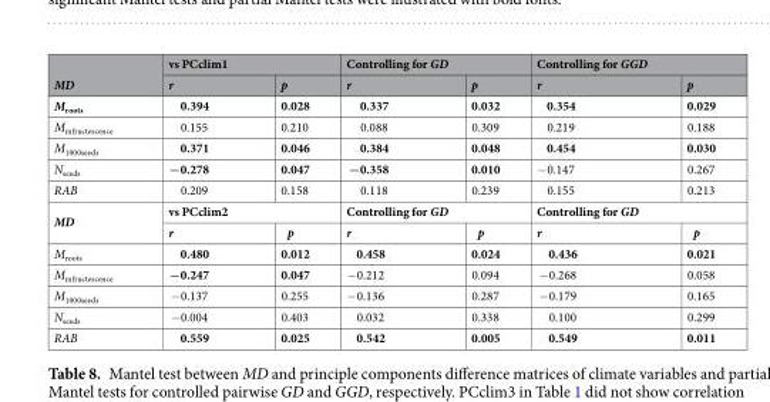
<table><thead><tr><td rowspan="2">MD</td><td colspan="2">vs PCclim1</td><td colspan="2">Controlling for GD</td><td colspan="2">Controlling for GGD</td></tr><tr><td>r</td><td>p</td><td>r</td><td>p</td><td>r</td><td>p</td></tr></thead><tbody><tr><td>M<sub>roots</sub></td><td>0.394</td><td>0.028</td><td>0.337</td><td>0.032</td><td>0.354</td><td>0.029</td></tr><tr><td>M<sub>infructescence</sub></td><td>0.155</td><td>0.210</td><td>0.088</td><td>0.309</td><td>0.219</td><td>0.188</td></tr><tr><td>M<sub>1000seeds</sub></td><td>0.371</td><td>0.046</td><td>0.384</td><td>0.048</td><td>0.454</td><td>0.030</td></tr><tr><td>N<sub>seeds</sub></td><td>−0.278</td><td>0.047</td><td>−0.358</td><td>0.010</td><td>−0.147</td><td>0.267</td></tr><tr><td>RAB</td><td>0.209</td><td>0.158</td><td>0.118</td><td>0.239</td><td>0.155</td><td>0.213</td></tr><tr><td rowspan="2">MD</td><td colspan="2">vs PCclim2</td><td colspan="2">Controlling for GD</td><td colspan="2">Controlling for GD</td></tr><tr><td>r</td><td>p</td><td>r</td><td>p</td><td>r</td><td>p</td></tr><tr><td>M<sub>roots</sub></td><td>0.480</td><td>0.012</td><td>0.458</td><td>0.024</td><td>0.436</td><td>0.021</td></tr><tr><td>M<sub>infructescence</sub></td><td>−0.247</td><td>0.047</td><td>−0.212</td><td>0.094</td><td>−0.268</td><td>0.058</td></tr><tr><td>M<sub>1000seeds</sub></td><td>−0.137</td><td>0.255</td><td>−0.136</td><td>0.287</td><td>−0.179</td><td>0.165</td></tr><tr><td>N<sub>seeds</sub></td><td>−0.004</td><td>0.403</td><td>0.032</td><td>0.338</td><td>0.100</td><td>0.299</td></tr><tr><td>RAB</td><td>0.559</td><td>0.025</td><td>0.542</td><td>0.005</td><td>0.549</td><td>0.011</td></tr></tbody></table>